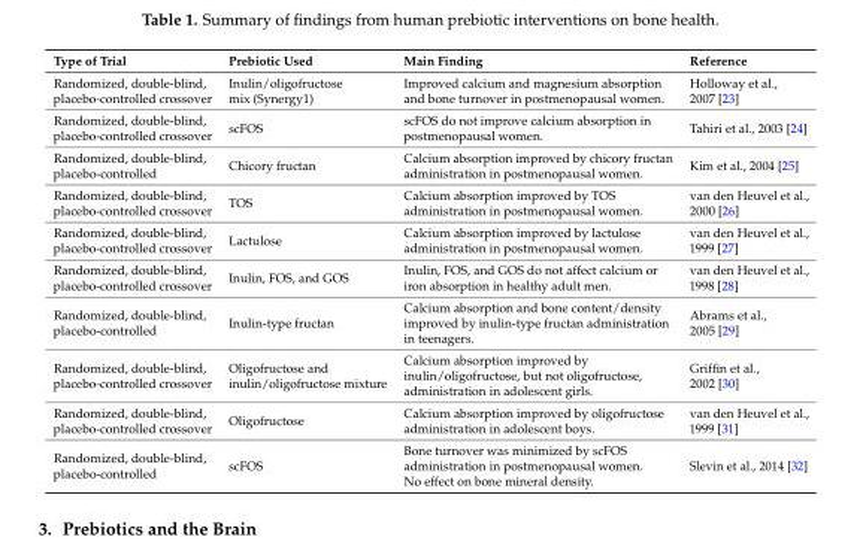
<table><thead><tr><td>Type of Trial</td><td>Prebiotic Used</td><td>Main Finding</td><td>Reference</td></tr></thead><tbody><tr><td>Randomized, double-blind, placebo-controlled crossover</td><td>Inulin/oligofructose mix (Synergy1)</td><td>Improved calcium and magnesium absorption and bone turnover in postmenopausal women.</td><td>Holloway et al., 2007 [23]</td></tr><tr><td>Randomized, double-blind, placebo-controlled crossover</td><td>scFOS</td><td>scFOS do not improve calcium absorption in postmenopausal women.</td><td>Tahiri et al., 2003 [24]</td></tr><tr><td>Randomized, double-blind, placebo-controlled</td><td>Chicory fructan</td><td>Calcium absorption improved by chicory fructan administration in postmenopausal women.</td><td>Kim et al., 2004 [25]</td></tr><tr><td>Randomized, double-blind, placebo-controlled crossover</td><td>TOS</td><td>Calcium absorption improved by TOS administration in postmenopausal women.</td><td>van den Heuvel et al., 2000 [26]</td></tr><tr><td>Randomized, double-blind, placebo-controlled crossover</td><td>Lactulose</td><td>Calcium absorption improved by lactulose administration in postmenopausal women.</td><td>van den Heuvel et al., 1999 [27]</td></tr><tr><td>Randomized, double-blind, placebo-controlled crossover</td><td>Inulin, FOS, and GOS</td><td>Inulin, FOS, and GOS do not affect calcium or iron absorption in healthy adult men.</td><td>van den Heuvel et al., 1998 [28]</td></tr><tr><td>Randomized, double-blind, placebo-controlled</td><td>Inulin-type fructan</td><td>Calcium absorption and bone content/density improved by inulin-type fructan administration in teenagers.</td><td>Abrams et al., 2005 [29]</td></tr><tr><td>Randomized, double-blind, placebo-controlled crossover</td><td>Oligofructose and inulin/oligofructose mixture</td><td>Calcium absorption improved by inulin/oligofructose, but not oligofructose, administration in adolescent girls.</td><td>Griffin et al., 2002 [30]</td></tr><tr><td>Randomized, double-blind, placebo-controlled crossover</td><td>Oligofructose</td><td>Calcium absorption improved by oligofructose administration in adolescent boys.</td><td>van den Heuvel et al., 1999 [31]</td></tr><tr><td>Randomized, double-blind, placebo-controlled</td><td>scFOS</td><td>Bone turnover was minimized by scFOS administration in postmenopausal women. No effect on bone mineral density.</td><td>Slevin et al., 2014 [32]</td></tr></tbody></table>